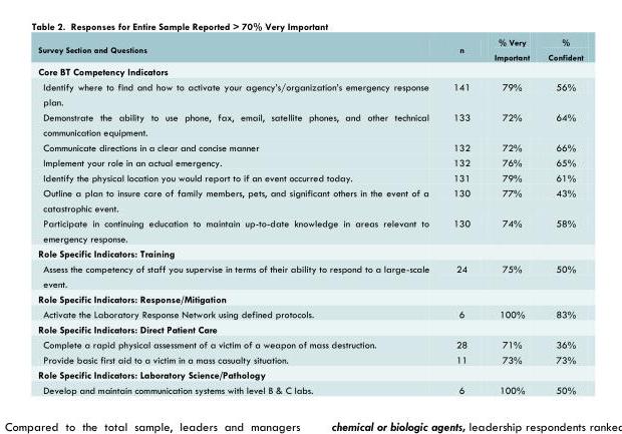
<table><thead><tr><td>Survey Section and Questions</td><td>n</td><td>% Very Important</td><td>% Confident</td></tr></thead><tbody><tr><td colspan="4">Core BT Competency Indicators</td></tr><tr><td>Identify where to find and how to activate your agency’s/organization’s emergency response plan.</td><td>141</td><td>79%</td><td>56%</td></tr><tr><td>Demonstrate the ability to use phone, fax, email, satellite phones, and other technical communication equipment.</td><td>133</td><td>72%</td><td>64%</td></tr><tr><td>Communicate directions in a clear and concise manner</td><td>132</td><td>72%</td><td>66%</td></tr><tr><td>Implement your role in an actual emergency.</td><td>132</td><td>76%</td><td>65%</td></tr><tr><td>Identify the physical location you would report to if an event occurred today.</td><td>131</td><td>79%</td><td>61%</td></tr><tr><td>Outline a plan to insure care of family members, pets, and significant others in the event of a catastrophic event.</td><td>130</td><td>77%</td><td>43%</td></tr><tr><td>Participate in continuing education to maintain up-to-date knowledge in areas relevant to emergency response.</td><td>130</td><td>74%</td><td>58%</td></tr><tr><td colspan="4">Role Specific Indicators: Training</td></tr><tr><td>Assess the competency of staff you supervise in terms of their ability to respond to a large-scale event.</td><td>24</td><td>75%</td><td>50%</td></tr><tr><td colspan="4">Role Specific Indicators: Response/Mitigation</td></tr><tr><td>Activate the Laboratory Response Network using defined protocols.</td><td>6</td><td>100%</td><td>83%</td></tr><tr><td colspan="4">Role Specific Indicators: Direct Patient Care</td></tr><tr><td>Complete a rapid physical assessment of a victim of a weapon of mass destruction.</td><td>28</td><td>71%</td><td>36%</td></tr><tr><td>Provide basic first aid to a victim in a mass casualty situation.</td><td>11</td><td>73%</td><td>73%</td></tr><tr><td colspan="4">Role Specific Indicators: Laboratory Science/Pathology</td></tr><tr><td>Develop and maintain communication systems with level B &amp; C labs.</td><td>6</td><td>100%</td><td>50%</td></tr></tbody></table>